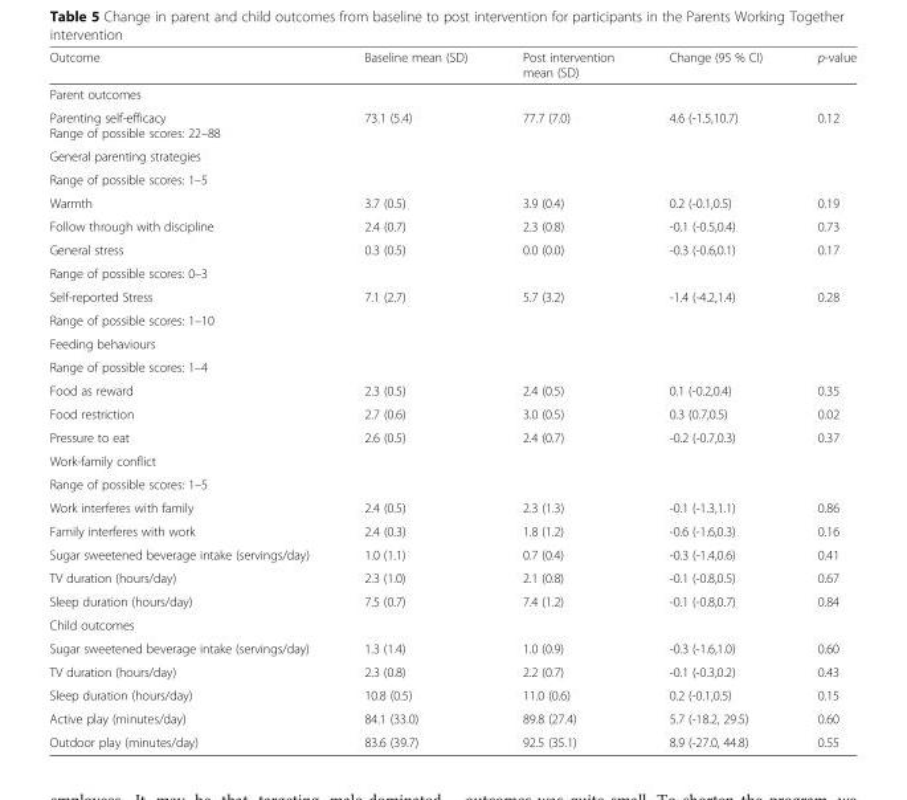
<table><thead><tr><td>Outcome</td><td>Baseline mean (SD)</td><td>Post intervention mean (SD)</td><td>Change (95 % CI)</td><td>p-value</td></tr></thead><tbody><tr><td colspan="5">Parent outcomes</td></tr><tr><td>Parenting self-efficacy Range of possible scores: 22–88</td><td>73.1 (5.4)</td><td>77.7 (7.0)</td><td>4.6 (-1.5,10.7)</td><td>0.12</td></tr><tr><td colspan="5">General parenting strategies</td></tr><tr><td colspan="5">Range of possible scores: 1–5</td></tr><tr><td>Warmth</td><td>3.7 (0.5)</td><td>3.9 (0.4)</td><td>0.2 (-0.1,0.5)</td><td>0.19</td></tr><tr><td>Follow through with discipline</td><td>2.4 (0.7)</td><td>2.3 (0.8)</td><td>-0.1 (-0.5,0.4)</td><td>0.73</td></tr><tr><td>General stress</td><td>0.3 (0.5)</td><td>0.0 (0.0)</td><td>-0.3 (-0.6,0.1)</td><td>0.17</td></tr><tr><td colspan="5">Range of possible scores: 0–3</td></tr><tr><td>Self-reported Stress</td><td>7.1 (2.7)</td><td>5.7 (3.2)</td><td>-1.4 (-4.2,1.4)</td><td>0.28</td></tr><tr><td colspan="5">Range of possible scores: 1–10</td></tr><tr><td colspan="5">Feeding behaviours</td></tr><tr><td colspan="5">Range of possible scores: 1–4</td></tr><tr><td>Food as reward</td><td>2.3 (0.5)</td><td>2.4 (0.5)</td><td>0.1 (-0.2,0.4)</td><td>0.35</td></tr><tr><td>Food restriction</td><td>2.7 (0.6)</td><td>3.0 (0.5)</td><td>0.3 (0.7,0.5)</td><td>0.02</td></tr><tr><td>Pressure to eat</td><td>2.6 (0.5)</td><td>2.4 (0.7)</td><td>-0.2 (-0.7,0.3)</td><td>0.37</td></tr><tr><td colspan="5">Work-family conflict</td></tr><tr><td colspan="5">Range of possible scores: 1–5</td></tr><tr><td>Work interferes with family</td><td>2.4 (0.5)</td><td>2.3 (1.3)</td><td>-0.1 (-1.3,1.1)</td><td>0.86</td></tr><tr><td>Family interferes with work</td><td>2.4 (0.3)</td><td>1.8 (1.2)</td><td>-0.6 (-1.6,0.3)</td><td>0.16</td></tr><tr><td>Sugar sweetened beverage intake (servings/day)</td><td>1.0 (1.1)</td><td>0.7 (0.4)</td><td>-0.3 (-1.4,0.6)</td><td>0.41</td></tr><tr><td>TV duration (hours/day)</td><td>2.3 (1.0)</td><td>2.1 (0.8)</td><td>-0.1 (-0.8,0.5)</td><td>0.67</td></tr><tr><td>Sleep duration (hours/day)</td><td>7.5 (0.7)</td><td>7.4 (1.2)</td><td>-0.1 (-0.8,0.7)</td><td>0.84</td></tr><tr><td colspan="5">Child outcomes</td></tr><tr><td>Sugar sweetened beverage intake (servings/day)</td><td>1.3 (1.4)</td><td>1.0 (0.9)</td><td>-0.3 (-1.6,1.0)</td><td>0.60</td></tr><tr><td>TV duration (hours/day)</td><td>2.3 (0.8)</td><td>2.2 (0.7)</td><td>-0.1 (-0.3,0.2)</td><td>0.43</td></tr><tr><td>Sleep duration (hours/day)</td><td>10.8 (0.5)</td><td>11.0 (0.6)</td><td>0.2 (-0.1,0.5)</td><td>0.15</td></tr><tr><td>Active play (minutes/day)</td><td>84.1 (33.0)</td><td>89.8 (27.4)</td><td>5.7 (-18.2, 29.5)</td><td>0.60</td></tr><tr><td>Outdoor play (minutes/day)</td><td>83.6 (39.7)</td><td>92.5 (35.1)</td><td>8.9 (-27.0, 44.8)</td><td>0.55</td></tr></tbody></table>